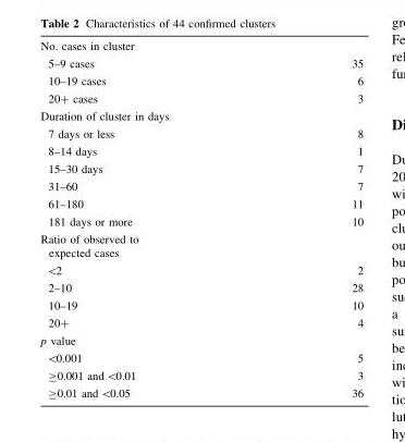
<table><tbody><tr><td colspan="2">No. cases in cluster</td></tr><tr><td>5–9 cases</td><td>35</td></tr><tr><td>10–19 cases</td><td>6</td></tr><tr><td>20+ cases</td><td>3</td></tr><tr><td colspan="2">Duration of cluster in days</td></tr><tr><td>7 days or less</td><td>8</td></tr><tr><td>8–14 days</td><td>1</td></tr><tr><td>15–30 days</td><td>7</td></tr><tr><td>31–60</td><td>7</td></tr><tr><td>61–180</td><td>11</td></tr><tr><td>181 days or more</td><td>10</td></tr><tr><td colspan="2">Ratio of observed to expected cases</td></tr><tr><td>&lt;2</td><td>2</td></tr><tr><td>2–10</td><td>28</td></tr><tr><td>10–19</td><td>10</td></tr><tr><td>20+</td><td>4</td></tr><tr><td colspan="2">p value</td></tr><tr><td>&lt;0.001</td><td>5</td></tr><tr><td>≥0.001 and &lt;0.01</td><td>3</td></tr><tr><td>≥0.01 and &lt;0.05</td><td>36</td></tr></tbody></table>